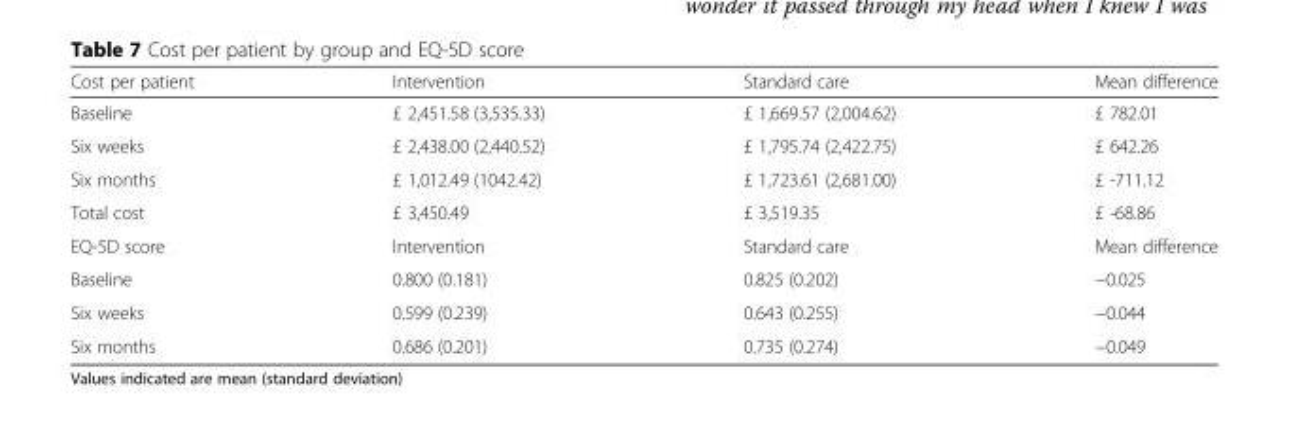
<table><thead><tr><td>Cost per patient</td><td>Intervention</td><td>Standard care</td><td>Mean difference</td></tr></thead><tbody><tr><td>Baseline</td><td>£ 2,451.58 (3,535.33)</td><td>£ 1,669.57 (2,004.62)</td><td>£ 782.01</td></tr><tr><td>Six weeks</td><td>£ 2,438.00 (2,440.52)</td><td>£ 1,795.74 (2,422.75)</td><td>£ 642.26</td></tr><tr><td>Six months</td><td>£ 1,012.49 (1042.42)</td><td>£ 1,723.61 (2,681.00)</td><td>£ -711.12</td></tr><tr><td>Total cost</td><td>£ 3,450.49</td><td>£ 3,519.35</td><td>£ -68.86</td></tr><tr><td>EQ-5D score</td><td>Intervention</td><td>Standard care</td><td>Mean difference</td></tr><tr><td>Baseline</td><td>0.800 (0.181)</td><td>0.825 (0.202)</td><td>−0.025</td></tr><tr><td>Six weeks</td><td>0.599 (0.239)</td><td>0.643 (0.255)</td><td>−0.044</td></tr><tr><td>Six months</td><td>0.686 (0.201)</td><td>0.735 (0.274)</td><td>−0.049</td></tr></tbody></table>